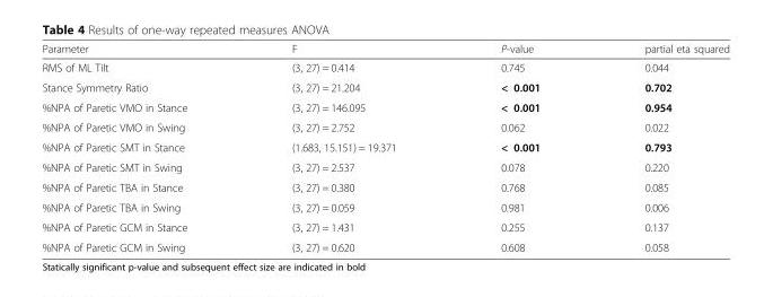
<table><thead><tr><td>Parameter</td><td>F</td><td>P-value</td><td>partial eta squared</td></tr></thead><tbody><tr><td>RMS of ML Tilt</td><td>(3, 27) = 0.414</td><td>0.745</td><td>0.044</td></tr><tr><td>Stance Symmetry Ratio</td><td>(3, 27) = 21.204</td><td>&lt; 0.001</td><td>0.702</td></tr><tr><td>%NPA of Paretic VMO in Stance</td><td>(3, 27) = 146.095</td><td>&lt; 0.001</td><td>0.954</td></tr><tr><td>%NPA of Paretic VMO in Swing</td><td>(3, 27) = 2.752</td><td>0.062</td><td>0.022</td></tr><tr><td>%NPA of Paretic SMT in Stance</td><td>(1.683, 15.151) = 19.371</td><td>&lt; 0.001</td><td>0.793</td></tr><tr><td>%NPA of Paretic SMT in Swing</td><td>(3, 27) = 2.537</td><td>0.078</td><td>0.220</td></tr><tr><td>%NPA of Paretic TBA in Stance</td><td>(3, 27) = 0.380</td><td>0.768</td><td>0.085</td></tr><tr><td>%NPA of Paretic TBA in Swing</td><td>(3, 27) = 0.059</td><td>0.981</td><td>0.006</td></tr><tr><td>%NPA of Paretic GCM in Stance</td><td>(3, 27) = 1.431</td><td>0.255</td><td>0.137</td></tr><tr><td>%NPA of Paretic GCM in Swing</td><td>(3, 27) = 0.620</td><td>0.608</td><td>0.058</td></tr></tbody></table>